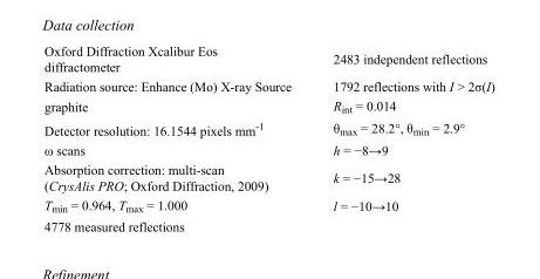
<table><tbody><tr><td>Oxford Diffraction Xcalibur Eos diffractometer</td><td>2483 independent reflections</td></tr><tr><td>Radiation source: Enhance (Mo) X-ray Source</td><td>1792 reflections with I &gt; 2σ(I)</td></tr><tr><td>graphite</td><td>R<sub>int</sub> = 0.014</td></tr><tr><td>Detector resolution: 16.1544 pixels mm<sup>-1</sup></td><td>θ<sub>max</sub> = 28.2°, θ<sub>min</sub> = 2.9°</td></tr><tr><td>ω scans</td><td>h = −8→9</td></tr><tr><td>Absorption correction: multi-scan (CrysAlis PRO; Oxford Diffraction, 2009)</td><td>k = −15→28</td></tr><tr><td>T<sub>min</sub> = 0.964, T<sub>max</sub> = 1.000</td><td>l = −10→10</td></tr><tr><td>4778 measured reflections</td><td></td></tr></tbody></table>